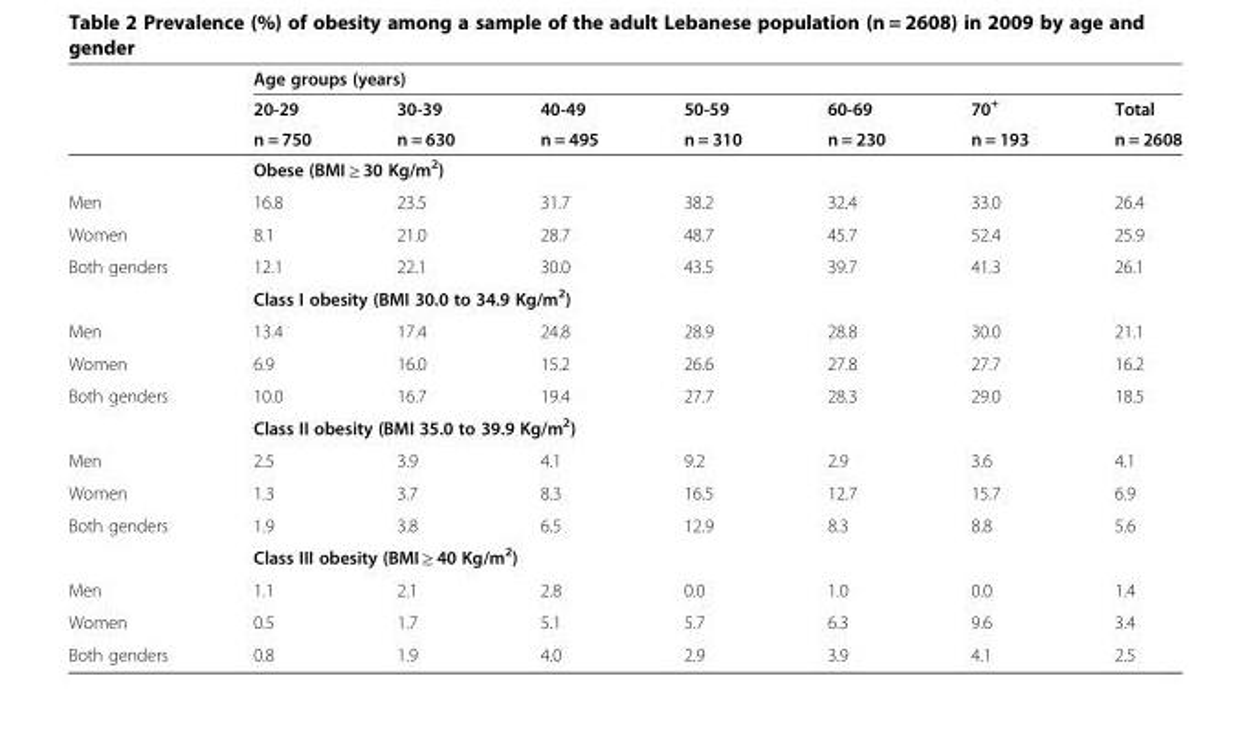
<table><thead><tr><td rowspan="3"></td><td colspan="7">Age groups (years)</td></tr><tr><td rowspan="2">20-29 n = 750</td><td rowspan="2">30-39 n = 630</td><td rowspan="2">40-49 n = 495</td><td rowspan="2">50-59 n = 310</td><td rowspan="2">60-69 n = 230</td><td rowspan="2">70<sup>+</sup> n = 193</td><td rowspan="2">Total n = 2608</td></tr><tr></tr></thead><tbody><tr><td></td><td colspan="7">Obese (BMI ≥ 30 Kg/m<sup>2</sup>)</td></tr><tr><td>Men</td><td>16.8</td><td>23.5</td><td>31.7</td><td>38.2</td><td>32.4</td><td>33.0</td><td>26.4</td></tr><tr><td>Women</td><td>8.1</td><td>21.0</td><td>28.7</td><td>48.7</td><td>45.7</td><td>52.4</td><td>25.9</td></tr><tr><td rowspan="2">Both genders</td><td>12.1</td><td>22.1</td><td>30.0</td><td>43.5</td><td>39.7</td><td>41.3</td><td>26.1</td></tr><tr><td colspan="7">Class I obesity (BMI 30.0 to 34.9 Kg/m<sup>2</sup>)</td></tr><tr><td>Men</td><td>13.4</td><td>17.4</td><td>24.8</td><td>28.9</td><td>28.8</td><td>30.0</td><td>21.1</td></tr><tr><td>Women</td><td>6.9</td><td>16.0</td><td>15.2</td><td>26.6</td><td>27.8</td><td>27.7</td><td>16.2</td></tr><tr><td rowspan="2">Both genders</td><td>10.0</td><td>16.7</td><td>19.4</td><td>27.7</td><td>28.3</td><td>29.0</td><td>18.5</td></tr><tr><td colspan="7">Class II obesity (BMI 35.0 to 39.9 Kg/m<sup>2</sup>)</td></tr><tr><td>Men</td><td>2.5</td><td>3.9</td><td>4.1</td><td>9.2</td><td>2.9</td><td>3.6</td><td>4.1</td></tr><tr><td>Women</td><td>1.3</td><td>3.7</td><td>8.3</td><td>16.5</td><td>12.7</td><td>15.7</td><td>6.9</td></tr><tr><td rowspan="2">Both genders</td><td>1.9</td><td>3.8</td><td>6.5</td><td>12.9</td><td>8.3</td><td>8.8</td><td>5.6</td></tr><tr><td colspan="7">Class III obesity (BMI ≥ 40 Kg/m<sup>2</sup>)</td></tr><tr><td>Men</td><td>1.1</td><td>2.1</td><td>2.8</td><td>0.0</td><td>1.0</td><td>0.0</td><td>1.4</td></tr><tr><td>Women</td><td>0.5</td><td>1.7</td><td>5.1</td><td>5.7</td><td>6.3</td><td>9.6</td><td>3.4</td></tr><tr><td>Both genders</td><td>0.8</td><td>1.9</td><td>4.0</td><td>2.9</td><td>3.9</td><td>4.1</td><td>2.5</td></tr></tbody></table>